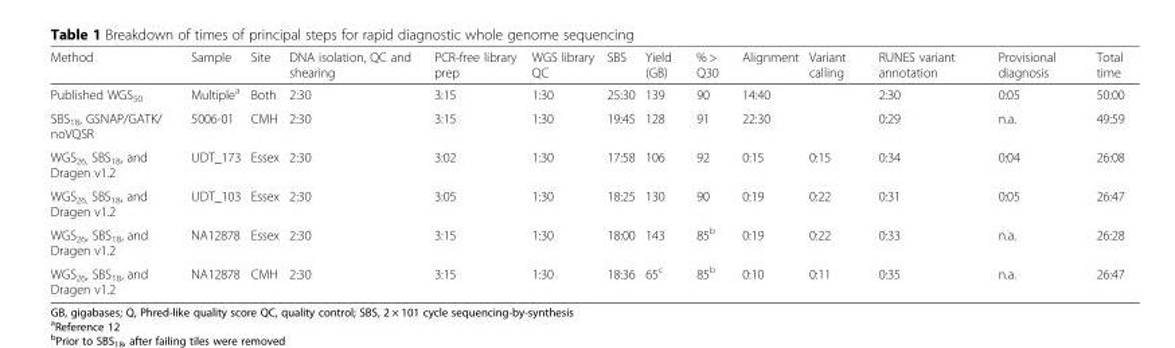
<table><thead><tr><td>Method</td><td>Sample</td><td>Site</td><td>DNA isolation, QC and shearing</td><td>PCR-free library prep</td><td>WGS library QC</td><td>SBS</td><td>Yield (GB)</td><td>% &gt; Q30</td><td>Alignment</td><td>Variant calling</td><td>RUNES variant annotation</td><td>Provisional diagnosis</td><td>Total time</td></tr></thead><tbody><tr><td>Published WGS<sub>50</sub></td><td>Multiple<sup>a</sup></td><td>Both</td><td>2:30</td><td>3:15</td><td>1:30</td><td>25:30</td><td>139</td><td>90</td><td colspan="2">14:40</td><td>2:30</td><td>0:05</td><td>50:00</td></tr><tr><td>SBS<sub>18</sub>, GSNAP/GATK/ noVQSR</td><td>5006-01</td><td>CMH</td><td>2:30</td><td>3:15</td><td>1:30</td><td>19:45</td><td>128</td><td>91</td><td colspan="2">22:30</td><td>0:29</td><td>n.a.</td><td>49:59</td></tr><tr><td>WGS<sub>26,</sub> SBS<sub>18</sub>, and Dragen v1.2</td><td>UDT_173</td><td>Essex</td><td>2:30</td><td>3:02</td><td>1:30</td><td>17:58</td><td>106</td><td>92</td><td>0:15</td><td>0:15</td><td>0:34</td><td>0:04</td><td>26:08</td></tr><tr><td>WGS<sub>26,</sub> SBS<sub>18</sub>, and Dragen v1.2</td><td>UDT_103</td><td>Essex</td><td>2:30</td><td>3:05</td><td>1:30</td><td>18:25</td><td>130</td><td>90</td><td>0:19</td><td>0:22</td><td>0:31</td><td>0:05</td><td>26:47</td></tr><tr><td>WGS<sub>26</sub>, SBS<sub>18</sub>, and Dragen v1.2</td><td>NA12878</td><td>Essex</td><td>2:30</td><td>3:15</td><td>1:30</td><td>18:00</td><td>143</td><td>85<sup>b</sup></td><td>0:19</td><td>0:22</td><td>0:33</td><td>n.a.</td><td>26:28</td></tr><tr><td>WGS<sub>26</sub>, SBS<sub>18</sub>, and Dragen v1.2</td><td>NA12878</td><td>CMH</td><td>2:30</td><td>3:15</td><td>1:30</td><td>18:36</td><td>65<sup>c</sup></td><td>85<sup>b</sup></td><td>0:10</td><td>0:11</td><td>0:35</td><td>n.a.</td><td>26:47</td></tr></tbody></table>